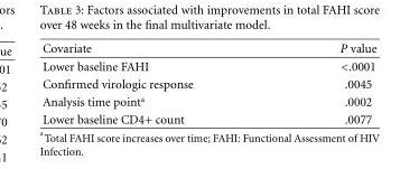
<table><thead><tr><td>Covariate</td><td>P value</td></tr></thead><tbody><tr><td>Lower baseline FAHI</td><td>&lt;.0001</td></tr><tr><td>Confirmed virologic response</td><td>.0045</td></tr><tr><td>Analysis time point<sup>a</sup></td><td>.0002</td></tr><tr><td>Lower baseline CD4+ count</td><td>.0077</td></tr></tbody></table>